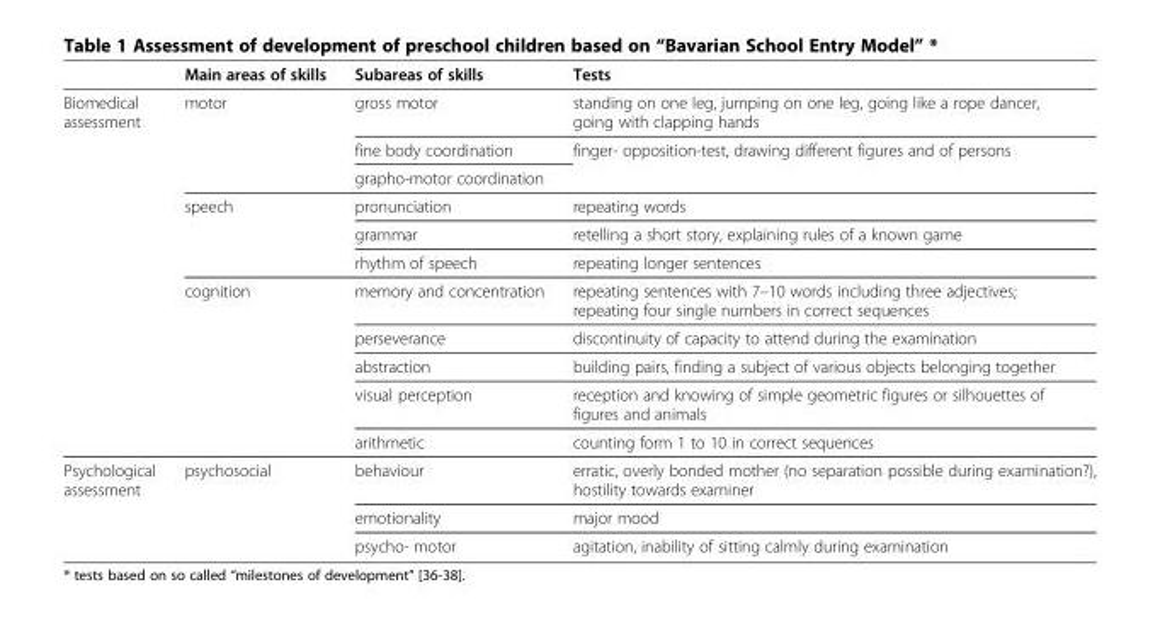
<table><thead><tr><td></td><td>Main areas of skills</td><td>Subareas of skills</td><td>Tests</td></tr></thead><tbody><tr><td rowspan="11">Biomedical assessment</td><td rowspan="3">motor</td><td>gross motor</td><td>standing on one leg, jumping on one leg, going like a rope dancer, going with clapping hands</td></tr><tr><td>fine body coordination</td><td rowspan="2">finger- opposition-test, drawing different figures and of persons</td></tr><tr><td>grapho-motor coordination</td></tr><tr><td rowspan="3">speech</td><td>pronunciation</td><td>repeating words</td></tr><tr><td>grammar</td><td>retelling a short story, explaining rules of a known game</td></tr><tr><td>rhythm of speech</td><td>repeating longer sentences</td></tr><tr><td rowspan="5">cognition</td><td>memory and concentration</td><td>repeating sentences with 7–10 words including three adjectives; repeating four single numbers in correct sequences</td></tr><tr><td>perseverance</td><td>discontinuity of capacity to attend during the examination</td></tr><tr><td>abstraction</td><td>building pairs, finding a subject of various objects belonging together</td></tr><tr><td>visual perception</td><td>reception and knowing of simple geometric figures or silhouettes of figures and animals</td></tr><tr><td>arithmetic</td><td>counting form 1 to 10 in correct sequences</td></tr><tr><td rowspan="3">Psychological assessment</td><td rowspan="3">psychosocial</td><td>behaviour</td><td>erratic, overly bonded mother (no separation possible during examination?), hostility towards examiner</td></tr><tr><td>emotionality</td><td>major mood</td></tr><tr><td>psycho- motor</td><td>agitation, inability of sitting calmly during examination</td></tr></tbody></table>